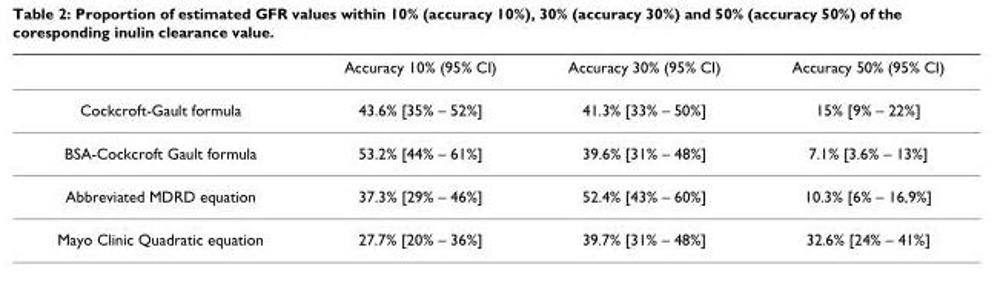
<table><thead><tr><td></td><td>Accuracy 10% (95% CI)</td><td>Accuracy 30% (95% CI)</td><td>Accuracy 50% (95% CI)</td></tr></thead><tbody><tr><td>Cockcroft-Gault formula</td><td>43.6% [35% – 52%]</td><td>41.3% [33% – 50%]</td><td>15% [9% – 22%]</td></tr><tr><td>BSA-Cockcroft Gault formula</td><td>53.2% [44% – 61%]</td><td>39.6% [31% – 48%]</td><td>7.1% [3.6% – 13%]</td></tr><tr><td>Abbreviated MDRD equation</td><td>37.3% [29% – 46%]</td><td>52.4% [43% – 60%]</td><td>10.3% [6% – 16,9%]</td></tr><tr><td>Mayo Clinic Quadratic equation</td><td>27.7% [20% – 36%]</td><td>39.7% [31% – 48%]</td><td>32.6% [24% – 41%]</td></tr></tbody></table>